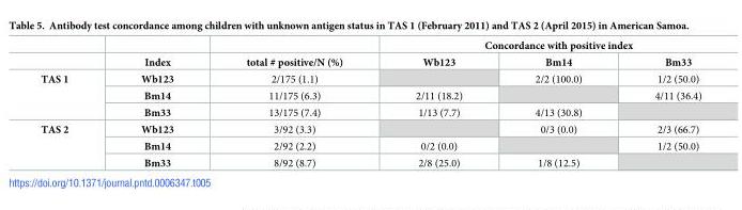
<table><thead><tr><td rowspan="2"></td><td rowspan="2">Index</td><td rowspan="2">total # positive/N (%)</td><td colspan="3">Concordance with positive index</td></tr><tr><td>Wb123</td><td>Bm14</td><td>Bm33</td></tr></thead><tbody><tr><td rowspan="3">TAS 1</td><td>Wb123</td><td>2/175 (1.1)</td><td></td><td>2/2 (100.0)</td><td>1/2 (50.0)</td></tr><tr><td>Bm14</td><td>11/175 (6.3)</td><td>2/11 (18.2)</td><td></td><td>4/11 (36.4)</td></tr><tr><td>Bm33</td><td>13/175 (7.4)</td><td>1/13 (7.7)</td><td>4/13 (30.8)</td><td></td></tr><tr><td rowspan="3">TAS 2</td><td>Wb123</td><td>3/92 (3.3)</td><td></td><td>0/3 (0.0)</td><td>2/3 (66.7)</td></tr><tr><td>Bm14</td><td>2/92 (2.2)</td><td>0/2 (0.0)</td><td></td><td>1/2 (50.0)</td></tr><tr><td>Bm33</td><td>8/92 (8.7)</td><td>2/8 (25.0)</td><td>1/8 (12.5)</td><td></td></tr></tbody></table>